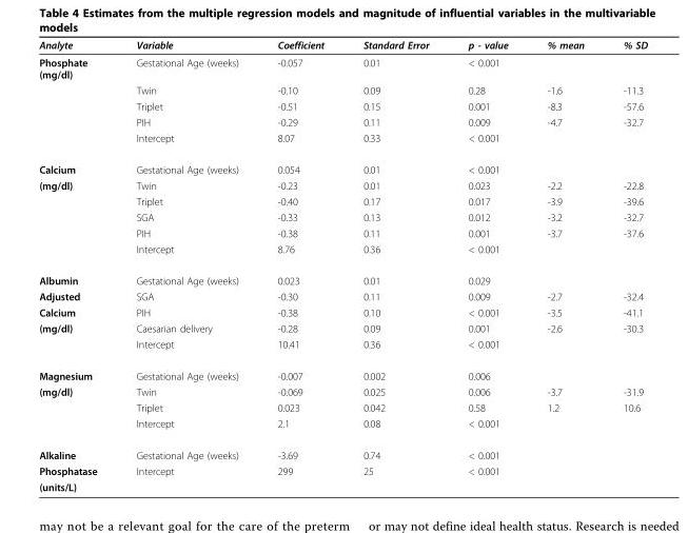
<table><thead><tr><td>Analyte</td><td>Variable</td><td>Coefficient</td><td>Standard Error</td><td>p - value</td><td>% mean</td><td>% SD</td></tr></thead><tbody><tr><td rowspan="5">Phosphate (mg/dl)</td><td>Gestational Age (weeks)</td><td>-0.057</td><td>0.01</td><td colspan="3">&lt; 0.001</td></tr><tr><td>Twin</td><td>-0.10</td><td>0.09</td><td>0.28</td><td>-1.6</td><td>-11.3</td></tr><tr><td>Triplet</td><td>-0.51</td><td>0.15</td><td>0.001</td><td>-8.3</td><td>-57.6</td></tr><tr><td>PIH</td><td>-0.29</td><td>0.11</td><td>0.009</td><td>-4.7</td><td>-32.7</td></tr><tr><td>Intercept</td><td>8.07</td><td>0.33</td><td colspan="3">&lt; 0.001</td></tr><tr><td>Calcium</td><td>Gestational Age (weeks)</td><td>0.054</td><td>0.01</td><td colspan="3">&lt; 0.001</td></tr><tr><td rowspan="5">(mg/dl)</td><td>Twin</td><td>-0.23</td><td>0.01</td><td>0.023</td><td>-2.2</td><td>-22.8</td></tr><tr><td>Triplet</td><td>-0.40</td><td>0.17</td><td>0.017</td><td>-3.9</td><td>-39.6</td></tr><tr><td>SGA</td><td>-0.33</td><td>0.13</td><td>0.012</td><td>-3.2</td><td>-32.7</td></tr><tr><td>PIH</td><td>-0.38</td><td>0.11</td><td>0.001</td><td>-3.7</td><td>-37.6</td></tr><tr><td>Intercept</td><td>8.76</td><td>0.36</td><td colspan="3">&lt; 0.001</td></tr><tr><td>Albumin</td><td>Gestational Age (weeks)</td><td>0.023</td><td>0.01</td><td colspan="3">0.029</td></tr><tr><td>Adjusted</td><td>SGA</td><td>-0.30</td><td>0.11</td><td>0.009</td><td>-2.7</td><td>-32.4</td></tr><tr><td>Calcium</td><td>PIH</td><td>-0.38</td><td>0.10</td><td>&lt; 0.001</td><td>-3.5</td><td>-41.1</td></tr><tr><td rowspan="2">(mg/dl)</td><td>Caesarian delivery</td><td>-0.28</td><td>0.09</td><td>0.001</td><td>-2.6</td><td>-30.3</td></tr><tr><td>Intercept</td><td>10.41</td><td>0.36</td><td colspan="3">&lt; 0.001</td></tr><tr><td>Magnesium</td><td>Gestational Age (weeks)</td><td>-0.007</td><td>0.002</td><td colspan="3">0.006</td></tr><tr><td rowspan="3">(mg/dl)</td><td>Twin</td><td>-0.069</td><td>0.025</td><td>0.006</td><td>-3.7</td><td>-31.9</td></tr><tr><td>Triplet</td><td>0.023</td><td>0.042</td><td>0.58</td><td>1.2</td><td>10.6</td></tr><tr><td>Intercept</td><td>2.1</td><td>0.08</td><td colspan="3">&lt; 0.001</td></tr><tr><td>Alkaline</td><td>Gestational Age (weeks)</td><td>-3.69</td><td>0.74</td><td colspan="3">&lt; 0.001</td></tr><tr><td>Phosphatase</td><td>Intercept</td><td>299</td><td>25</td><td colspan="3">&lt; 0.001</td></tr><tr><td>(units/L)</td><td></td><td></td><td></td><td></td><td></td><td></td></tr></tbody></table>